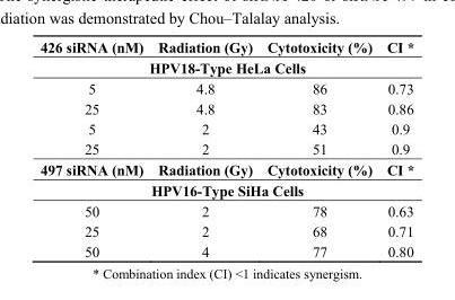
<table><thead><tr><td>426 siRNA (nM)</td><td>Radiation (Gy)</td><td>Cytotoxicity (%)</td><td>CI *</td></tr><tr><td colspan="4">HPV18-Type HeLa Cells</td></tr></thead><tbody><tr><td>5</td><td>4.8</td><td>86</td><td>0.73</td></tr><tr><td>25</td><td>4.8</td><td>83</td><td>0.86</td></tr><tr><td>5</td><td>2</td><td>43</td><td>0.9</td></tr><tr><td>25</td><td>2</td><td>51</td><td>0.9</td></tr><tr><td>497 siRNA (nM)</td><td>Radiation (Gy)</td><td>Cytotoxicity (%)</td><td>CI *</td></tr><tr><td colspan="4">HPV16-Type SiHa Cells</td></tr><tr><td>50</td><td>2</td><td>78</td><td>0.63</td></tr><tr><td>25</td><td>2</td><td>68</td><td>0.71</td></tr><tr><td>50</td><td>4</td><td>77</td><td>0.80</td></tr></tbody></table>